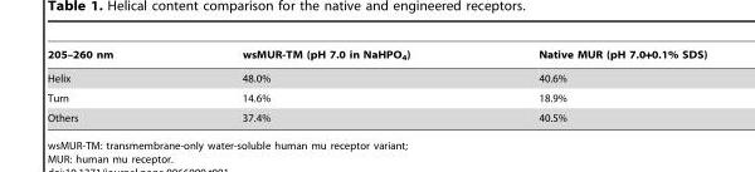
<table><thead><tr><td>205–260 nm</td><td>wsMUR-TM (pH 7.0 in NaHPO<sub>4</sub>)</td><td>Native MUR (pH 7.0+0.1% SDS)</td></tr></thead><tbody><tr><td>Helix</td><td>48.0%</td><td>40.6%</td></tr><tr><td>Turn</td><td>14.6%</td><td>18.9%</td></tr><tr><td>Others</td><td>37.4%</td><td>40.5%</td></tr></tbody></table>